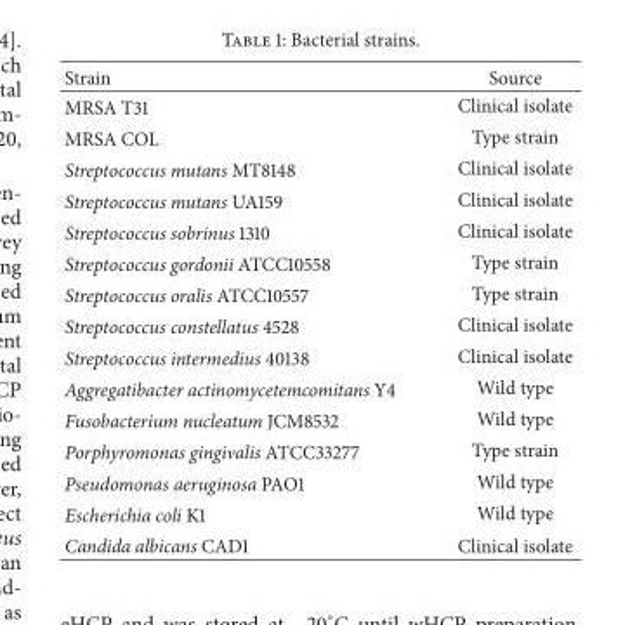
<table><thead><tr><td>Strain</td><td>Source</td></tr></thead><tbody><tr><td>MRSA T31</td><td>Clinical isolate</td></tr><tr><td>MRSA COL</td><td>Type strain</td></tr><tr><td>Streptococcus mutans MT8148</td><td>Clinical isolate</td></tr><tr><td>Streptococcus mutans UA159</td><td>Clinical isolate</td></tr><tr><td>Streptococcus sobrinus 1310</td><td>Clinical isolate</td></tr><tr><td>Streptococcus gordonii ATCC10558</td><td>Type strain</td></tr><tr><td>Streptococcus oralis ATCC10557</td><td>Type strain</td></tr><tr><td>Streptococcus constellatus 4528</td><td>Clinical isolate</td></tr><tr><td>Streptococcus intermedius 40138</td><td>Clinical isolate</td></tr><tr><td>Aggregatibacter actinomycetemcomitans Y4</td><td>Wild type</td></tr><tr><td>Fusobacterium nucleatum JCM8532</td><td>Wild type</td></tr><tr><td>Porphyromonas gingivalis ATCC33277</td><td>Type strain</td></tr><tr><td>Pseudomonas aeruginosa PAO1</td><td>Wild type</td></tr><tr><td>Escherichia coli K1</td><td>Wild type</td></tr><tr><td>Candida albicans CAD1</td><td>Clinical isolate</td></tr></tbody></table>